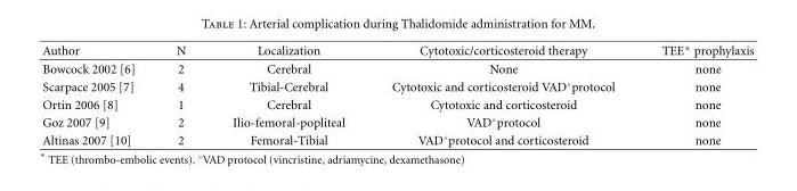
<table><thead><tr><td>Author</td><td>N</td><td>Localization</td><td>Cytotoxic/corticosteroid therapy</td><td>TEE∗ prophylaxis</td></tr></thead><tbody><tr><td>Bowcock 2002 [6]</td><td>2</td><td>Cerebral</td><td>None</td><td>none</td></tr><tr><td>Scarpace 2005 [7]</td><td>4</td><td>Tibial-Cerebral</td><td>Cytotoxic and corticosteroid VAD◦protocol</td><td>none</td></tr><tr><td>Ortin 2006 [8]</td><td>1</td><td>Cerebral</td><td>Cytotoxic and corticosteroid</td><td>none</td></tr><tr><td>Goz 2007 [9]</td><td>2</td><td>Ilio-femoral-popliteal</td><td>VAD◦protocol</td><td>none</td></tr><tr><td>Altinas 2007 [10]</td><td>2</td><td>Femoral-Tibial</td><td>VAD◦protocol and corticosteroid</td><td>none</td></tr></tbody></table>